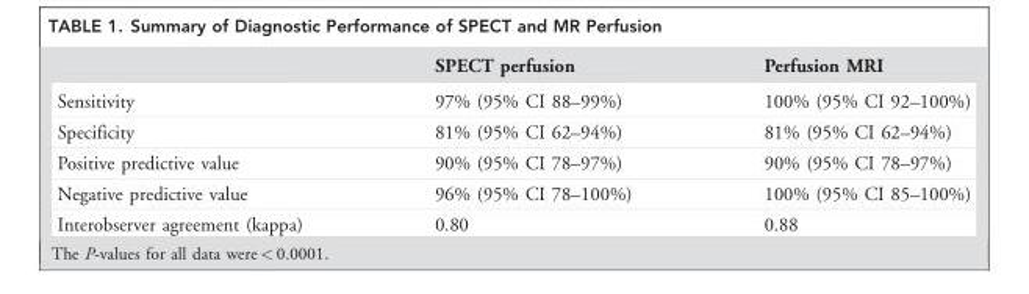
<table><thead><tr><td></td><td>SPECT perfusion</td><td>Perfusion MRI</td></tr></thead><tbody><tr><td>Sensitivity</td><td>97% (95% CI 88–99%)</td><td>100% (95% CI 92–100%)</td></tr><tr><td>Specificity</td><td>81% (95% CI 62–94%)</td><td>81% (95% CI 62–94%)</td></tr><tr><td>Positive predictive value</td><td>90% (95% CI 78–97%)</td><td>90% (95% CI 78–97%)</td></tr><tr><td>Negative predictive value</td><td>96% (95% CI 78–100%)</td><td>100% (95% CI 85–100%)</td></tr><tr><td>Interobserver agreement (kappa)</td><td>0.80</td><td>0.88</td></tr></tbody></table>